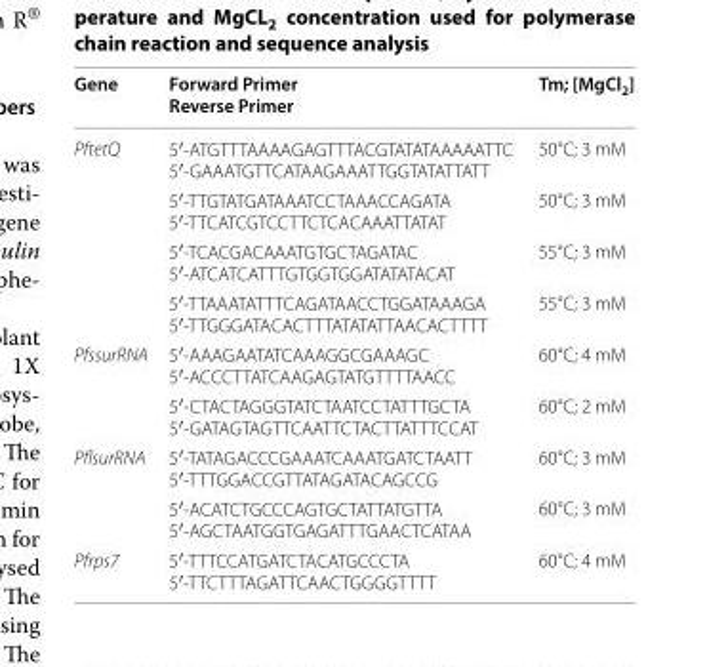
<table><thead><tr><td>Gene</td><td>Forward Primer Reverse Primer</td><td>Tm; [MgCl<sub>2</sub>]</td></tr></thead><tbody><tr><td rowspan="4">PftetQ</td><td>5′-ATGTTTAAAAGAGTTTACGTATATAAAAATTC 5′-GAAATGTTCATAAGAAATTGGTATATTATT</td><td>50°C; 3 mM</td></tr><tr><td>5′-TTGTATGATAAATCCTAAACCAGATA 5′-TTCATCGTCCTTCTCACAAATTATAT</td><td>50°C; 3 mM</td></tr><tr><td>5′-TCACGACAAATGTGCTAGATAC 5′-ATCATCATTTGTGGTGGATATATACAT</td><td>55°C; 3 mM</td></tr><tr><td>5′-TTAAATATTTCAGATAACCTGGATAAAGA 5′-TTGGGATACACTTTATATATTAACACTTTT</td><td>55°C; 3 mM</td></tr><tr><td rowspan="2">PfssurRNA</td><td>5′-AAAGAATATCAAAGGCGAAAGC 5′-ACCCTTATCAAGAGTATGTTTTAACC</td><td>60°C; 4 mM</td></tr><tr><td>5′-CTACTAGGGTATCTAATCCTATTTGCTA 5′-GATAGTAGTTCAATTCTACTTATTTCCAT</td><td>60°C; 2 mM</td></tr><tr><td rowspan="2">PflsurRNA</td><td>5′-TATAGACCCGAAATCAAATGATCTAATT 5′-TTTGGACCGTTATAGATACAGCCG</td><td>60°C; 3 mM</td></tr><tr><td>5′-ACATCTGCCCAGTGCTATTATGTTA 5′-AGCTAATGGTGAGATTTGAACTCATAA</td><td>60°C; 3 mM</td></tr><tr><td>Pfrps7</td><td>5′-TTTCCATGATCTACATGCCCTA 5′-TTCTTTAGATTCAACTGGGGTTTT</td><td>60°C; 4 mM</td></tr></tbody></table>